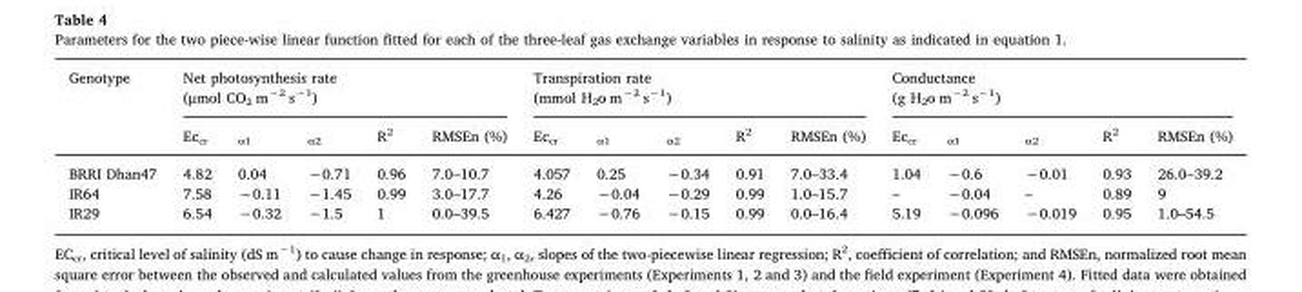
<table><thead><tr><td rowspan="2">Genotype</td><td colspan="5">Net photosynthesis rate (μmol CO<sub>2</sub> m<sup>−2</sup> s<sup>−1</sup>)</td><td colspan="5">Transpiration rate (mmol H<sub>2</sub>o m<sup>−2</sup> s<sup>−1</sup>)</td><td colspan="5">Conductance (g H<sub>2</sub>o m<sup>−2</sup> s<sup>−1</sup>)</td></tr><tr><td>Ec<sub>cr</sub></td><td><sub>α</sub>1</td><td><sub>α</sub>2</td><td>R<sup>2</sup></td><td>RMSEn (%)</td><td>Ec<sub>cr</sub></td><td><sub>α</sub>1</td><td><sub>α</sub>2</td><td>R<sup>2</sup></td><td>RMSEn (%)</td><td>Ec<sub>cr</sub></td><td><sub>α</sub>1</td><td><sub>α</sub>2</td><td>R<sup>2</sup></td><td>RMSEn (%)</td></tr></thead><tbody><tr><td>BRRI Dhan47</td><td>4.82</td><td>0.04</td><td>−0.71</td><td>0.96</td><td>7.0–10.7</td><td>4.057</td><td>0.25</td><td>−0.34</td><td>0.91</td><td>7.0–33.4</td><td>1.04</td><td>−0.6</td><td>−0.01</td><td>0.93</td><td>26.0–39.2</td></tr><tr><td>IR64</td><td>7.58</td><td>−0.11</td><td>−1.45</td><td>0.99</td><td>3.0–17.7</td><td>4.26</td><td>−0.04</td><td>−0.29</td><td>0.99</td><td>1.0–15.7</td><td>–</td><td>−0.04</td><td>–</td><td>0.89</td><td>9</td></tr><tr><td>IR29</td><td>6.54</td><td>−0.32</td><td>−1.5</td><td>1</td><td>0.0–39.5</td><td>6.427</td><td>−0.76</td><td>−0.15</td><td>0.99</td><td>0.0–16.4</td><td>5.19</td><td>−0.096</td><td>−0.019</td><td>0.95</td><td>1.0–54.5</td></tr></tbody></table>